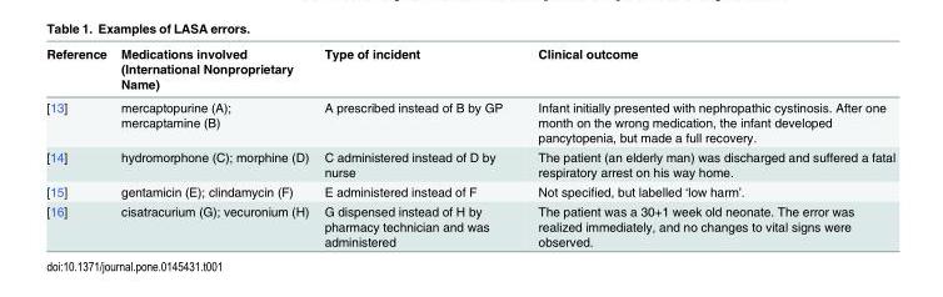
<table><thead><tr><td>Reference</td><td>Medications involved (International Nonproprietary Name)</td><td>Type of incident</td><td>Clinical outcome</td></tr></thead><tbody><tr><td>[13]</td><td>mercaptopurine (A); mercaptamine (B)</td><td>A prescribed instead of B by GP</td><td>Infant initially presented with nephropathic cystinosis. After one month on the wrong medication, the infant developed pancytopenia, but made a full recovery.</td></tr><tr><td>[14]</td><td>hydromorphone (C); morphine (D)</td><td>C administered instead of D by nurse</td><td>The patient (an elderly man) was discharged and suffered a fatal respiratory arrest on his way home.</td></tr><tr><td>[15]</td><td>gentamicin (E); clindamycin (F)</td><td>E administered instead of F</td><td>Not specified, but labelled ‘low harm’.</td></tr><tr><td>[16]</td><td>cisatracurium (G); vecuronium (H)</td><td>G dispensed instead of H by pharmacy technician and was administered</td><td>The patient was a 30+1 week old neonate. The error was realized immediately, and no changes to vital signs were observed.</td></tr></tbody></table>